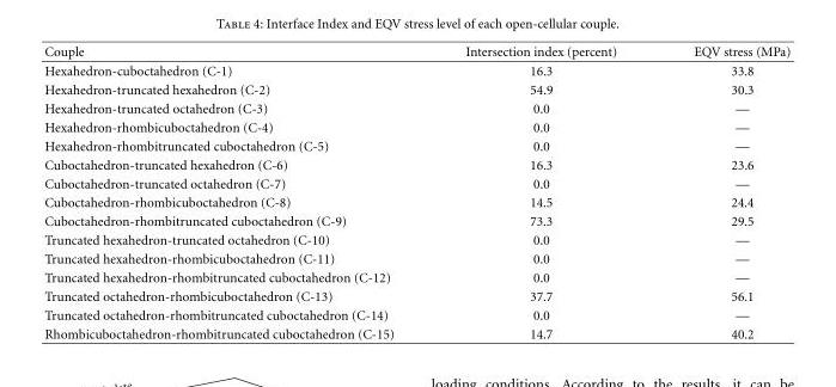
<table><thead><tr><td>Couple</td><td>Intersection index (percent)</td><td>EQV stress (MPa)</td></tr></thead><tbody><tr><td>Hexahedron-cuboctahedron (C-1)</td><td>16.3</td><td>33.8</td></tr><tr><td>Hexahedron-truncated hexahedron (C-2)</td><td>54.9</td><td>30.3</td></tr><tr><td>Hexahedron-truncated octahedron (C-3)</td><td>0.0</td><td>—</td></tr><tr><td>Hexahedron-rhombicuboctahedron (C-4)</td><td>0.0</td><td>—</td></tr><tr><td>Hexahedron-rhombitruncated cuboctahedron (C-5)</td><td>0.0</td><td>—</td></tr><tr><td>Cuboctahedron-truncated hexahedron (C-6)</td><td>16.3</td><td>23.6</td></tr><tr><td>Cuboctahedron-truncated octahedron (C-7)</td><td>0.0</td><td>—</td></tr><tr><td>Cuboctahedron-rhombicuboctahedron (C-8)</td><td>14.5</td><td>24.4</td></tr><tr><td>Cuboctahedron-rhombitruncated cuboctahedron (C-9)</td><td>73.3</td><td>29.5</td></tr><tr><td>Truncated hexahedron-truncated octahedron (C-10)</td><td>0.0</td><td>—</td></tr><tr><td>Truncated hexahedron-rhombicuboctahedron (C-11)</td><td>0.0</td><td>—</td></tr><tr><td>Truncated hexahedron-rhombitruncated cuboctahedron (C-12)</td><td>0.0</td><td>—</td></tr><tr><td>Truncated octahedron-rhombicuboctahedron (C-13)</td><td>37.7</td><td>56.1</td></tr><tr><td>Truncated octahedron-rhombitruncated cuboctahedron (C-14)</td><td>0.0</td><td>—</td></tr><tr><td>Rhombicuboctahedron-rhombitruncated cuboctahedron (C-15)</td><td>14.7</td><td>40.2</td></tr></tbody></table>